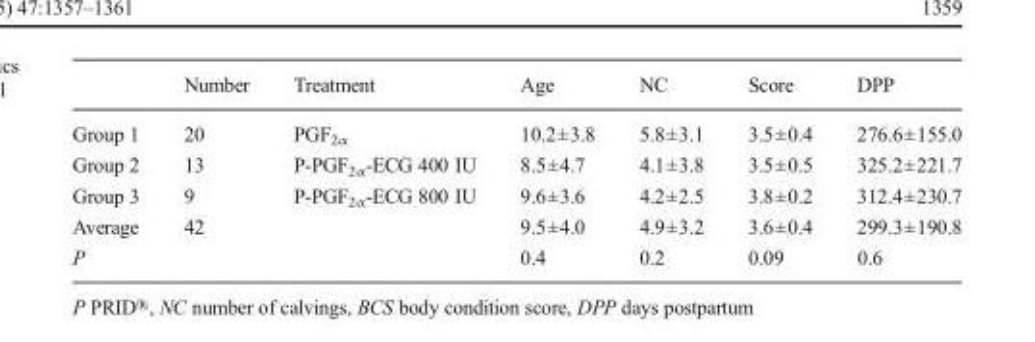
<table><thead><tr><td></td><td>Number</td><td>Treatment</td><td>Age</td><td>NC</td><td>Score</td><td>DPP</td></tr></thead><tbody><tr><td>Group 1</td><td>20</td><td>PGF<sub>2α</sub></td><td>10.2±3.8</td><td>5.8±3.1</td><td>3.5±0.4</td><td>276.6±155.0</td></tr><tr><td>Group 2</td><td>13</td><td>P-PGF<sub>2α</sub>-ECG 400 IU</td><td>8.5±4.7</td><td>4.1±3.8</td><td>3.5±0.5</td><td>325.2±221.7</td></tr><tr><td>Group 3</td><td>9</td><td>P-PGF<sub>2α</sub>-ECG 800 IU</td><td>9.6±3.6</td><td>4.2±2.5</td><td>3.8±0.2</td><td>312.4±230.7</td></tr><tr><td>Average</td><td>42</td><td></td><td>9.5±4.0</td><td>4.9±3.2</td><td>3.6±0.4</td><td>299.3±190.8</td></tr><tr><td>P</td><td></td><td></td><td>0.4</td><td>0.2</td><td>0.09</td><td>0.6</td></tr></tbody></table>